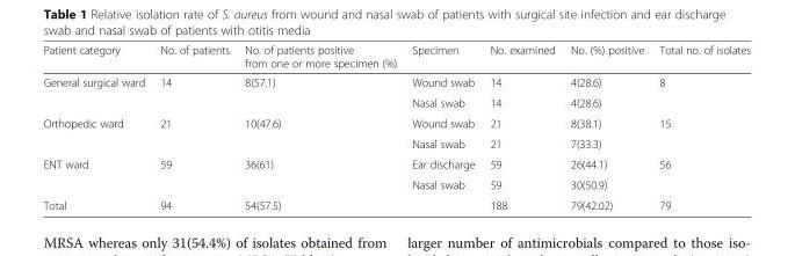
<table><thead><tr><td>Patient category</td><td>No. of patients</td><td>No. of patients positive from one or more specimen (%)</td><td>Specimen</td><td>No. examined</td><td>No. (%) positive</td><td>Total no. of isolates</td></tr></thead><tbody><tr><td rowspan="2">General surgical ward</td><td rowspan="2">14</td><td rowspan="2">8(57.1)</td><td>Wound swab</td><td>14</td><td>4(28.6)</td><td rowspan="2">8</td></tr><tr><td>Nasal swab</td><td>14</td><td>4(28.6)</td></tr><tr><td rowspan="2">Orthopedic ward</td><td rowspan="2">21</td><td rowspan="2">10(47.6)</td><td>Wound swab</td><td>21</td><td>8(38.1)</td><td rowspan="2">15</td></tr><tr><td>Nasal swab</td><td>21</td><td>7(33.3)</td></tr><tr><td rowspan="2">ENT ward</td><td rowspan="2">59</td><td>36(61)</td><td>Ear discharge</td><td>59</td><td>26(44.1)</td><td rowspan="2">56</td></tr><tr><td></td><td>Nasal swab</td><td>59</td><td>30(50.9)</td></tr><tr><td>Total</td><td>94</td><td>54(57.5)</td><td></td><td>188</td><td>79(42.02)</td><td>79</td></tr></tbody></table>